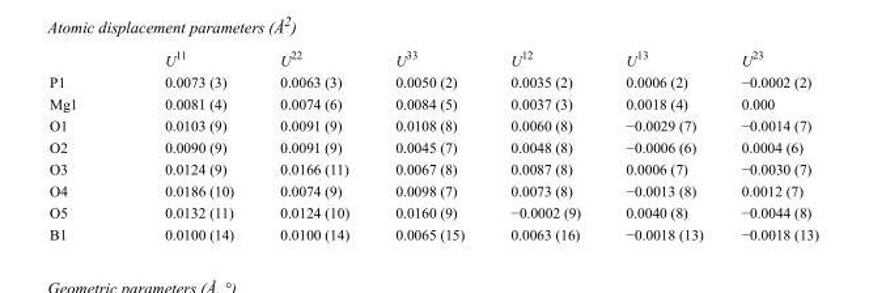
<table><thead><tr><td></td><td>U<sup>11</sup></td><td>U<sup>22</sup></td><td>U<sup>33</sup></td><td>U<sup>12</sup></td><td>U<sup>13</sup></td><td>U<sup>23</sup></td></tr></thead><tbody><tr><td>P1</td><td>0.0073 (3)</td><td>0.0063 (3)</td><td>0.0050 (2)</td><td>0.0035 (2)</td><td>0.0006 (2)</td><td>−0.0002 (2)</td></tr><tr><td>Mg1</td><td>0.0081 (4)</td><td>0.0074 (6)</td><td>0.0084 (5)</td><td>0.0037 (3)</td><td>0.0018 (4)</td><td>0.000</td></tr><tr><td>O1</td><td>0.0103 (9)</td><td>0.0091 (9)</td><td>0.0108 (8)</td><td>0.0060 (8)</td><td>−0.0029 (7)</td><td>−0.0014 (7)</td></tr><tr><td>O2</td><td>0.0090 (9)</td><td>0.0091 (9)</td><td>0.0045 (7)</td><td>0.0048 (8)</td><td>−0.0006 (6)</td><td>0.0004 (6)</td></tr><tr><td>O3</td><td>0.0124 (9)</td><td>0.0166 (11)</td><td>0.0067 (8)</td><td>0.0087 (8)</td><td>0.0006 (7)</td><td>−0.0030 (7)</td></tr><tr><td>O4</td><td>0.0186 (10)</td><td>0.0074 (9)</td><td>0.0098 (7)</td><td>0.0073 (8)</td><td>−0.0013 (8)</td><td>0.0012 (7)</td></tr><tr><td>O5</td><td>0.0132 (11)</td><td>0.0124 (10)</td><td>0.0160 (9)</td><td>−0.0002 (9)</td><td>0.0040 (8)</td><td>−0.0044 (8)</td></tr><tr><td>B1</td><td>0.0100 (14)</td><td>0.0100 (14)</td><td>0.0065 (15)</td><td>0.0063 (16)</td><td>−0.0018 (13)</td><td>−0.0018 (13)</td></tr></tbody></table>